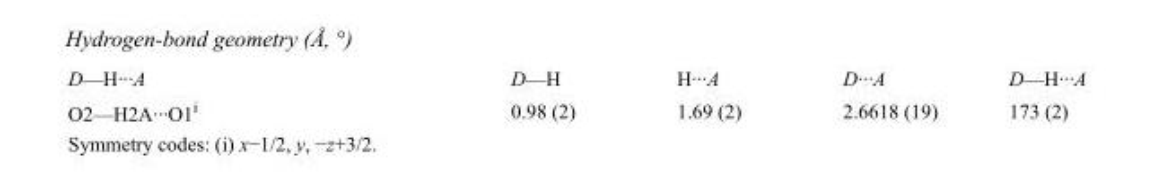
<table><tbody><tr><td>D—H···A</td><td>D—H</td><td>H···A</td><td>D···A</td><td>D—H···A</td></tr><tr><td>O2—H2A···O1<sup>i</sup></td><td>0.98 (2)</td><td>1.69 (2)</td><td>2.6618 (19)</td><td>173 (2)</td></tr></tbody></table>